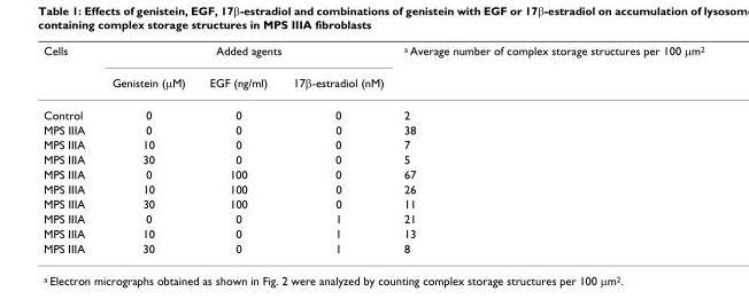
<table><thead><tr><td rowspan="2">Cells</td><td colspan="3">Added agents</td><td rowspan="2"><sup>a</sup> Average number of complex storage structures per 100 μm<sup>2</sup></td></tr><tr><td>Genistein (μM)</td><td>EGF (ng/ml)</td><td>17β-estradiol (nM)</td></tr></thead><tbody><tr><td>Control</td><td>0</td><td>0</td><td>0</td><td>2</td></tr><tr><td>MPS IIIA</td><td>0</td><td>0</td><td>0</td><td>38</td></tr><tr><td>MPS IIIA</td><td>10</td><td>0</td><td>0</td><td>7</td></tr><tr><td>MPS IIIA</td><td>30</td><td>0</td><td>0</td><td>5</td></tr><tr><td>MPS IIIA</td><td>0</td><td>100</td><td>0</td><td>67</td></tr><tr><td>MPS IIIA</td><td>10</td><td>100</td><td>0</td><td>26</td></tr><tr><td>MPS IIIA</td><td>30</td><td>100</td><td>0</td><td>11</td></tr><tr><td>MPS IIIA</td><td>0</td><td>0</td><td>1</td><td>21</td></tr><tr><td>MPS IIIA</td><td>10</td><td>0</td><td>1</td><td>13</td></tr><tr><td>MPS IIIA</td><td>30</td><td>0</td><td>1</td><td>8</td></tr></tbody></table>